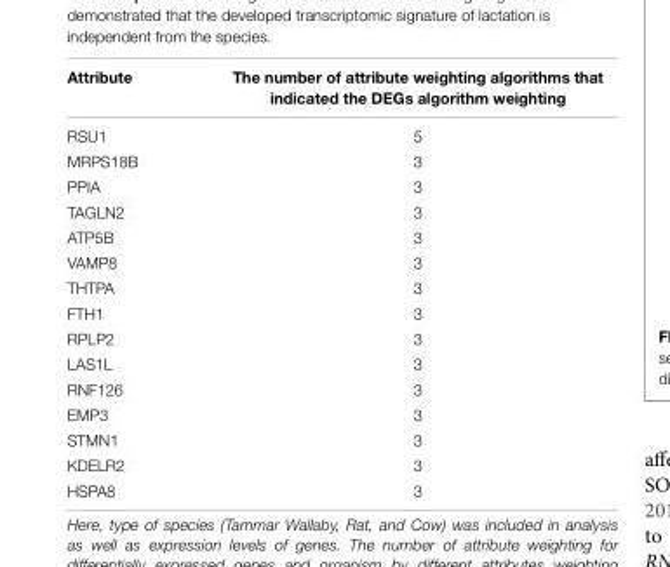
<table><thead><tr><td>Attribute</td><td>The number of attribute weighting algorithms that indicated the DEGs algorithm weighting</td></tr></thead><tbody><tr><td>RSU1</td><td>5</td></tr><tr><td>MRPS18B</td><td>3</td></tr><tr><td>PPIA</td><td>3</td></tr><tr><td>TAGLN2</td><td>3</td></tr><tr><td>ATP5B</td><td>3</td></tr><tr><td>VAMP8</td><td>3</td></tr><tr><td>THTPA</td><td>3</td></tr><tr><td>FTH1</td><td>3</td></tr><tr><td>RPLP2</td><td>3</td></tr><tr><td>LAS1L</td><td>3</td></tr><tr><td>RNF126</td><td>3</td></tr><tr><td>EMP3</td><td>3</td></tr><tr><td>STMN1</td><td>3</td></tr><tr><td>KDELR2</td><td>3</td></tr><tr><td>HSPA8</td><td>3</td></tr></tbody></table>